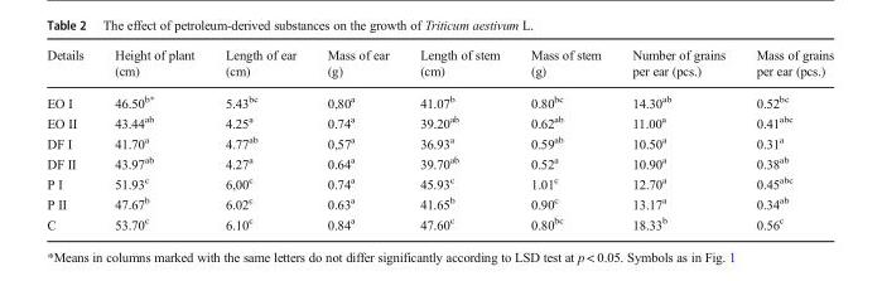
<table><thead><tr><td>Details</td><td>Height of plant (cm)</td><td>Length of ear (cm)</td><td>Mass of ear (g)</td><td>Length of stem (cm)</td><td>Mass of stem (g)</td><td>Number of grains per ear (pcs.)</td><td>Mass of grains per ear (pcs.)</td></tr></thead><tbody><tr><td>EO I</td><td>46.50<sup>b*</sup></td><td>5.43<sup>bc</sup></td><td>0,80<sup>a</sup></td><td>41.07<sup>b</sup></td><td>0.80<sup>bc</sup></td><td>14.30<sup>ab</sup></td><td>0.52<sup>bc</sup></td></tr><tr><td>EO II</td><td>43.44<sup>ab</sup></td><td>4.25<sup>a</sup></td><td>0.74<sup>a</sup></td><td>39.20<sup>ab</sup></td><td>0.62<sup>ab</sup></td><td>11.00<sup>a</sup></td><td>0.41<sup>abc</sup></td></tr><tr><td>DF I</td><td>41.70<sup>a</sup></td><td>4.77<sup>ab</sup></td><td>0,57<sup>a</sup></td><td>36.93<sup>a</sup></td><td>0.59<sup>ab</sup></td><td>10.50<sup>a</sup></td><td>0.31<sup>a</sup></td></tr><tr><td>DF II</td><td>43.97<sup>ab</sup></td><td>4.27<sup>a</sup></td><td>0.64<sup>a</sup></td><td>39.70<sup>ab</sup></td><td>0.52<sup>a</sup></td><td>10.90<sup>a</sup></td><td>0.38<sup>ab</sup></td></tr><tr><td>P I</td><td>51.93<sup>c</sup></td><td>6,00<sup>c</sup></td><td>0.74<sup>a</sup></td><td>45.93<sup>c</sup></td><td>1.01<sup>c</sup></td><td>12.70<sup>a</sup></td><td>0.45<sup>abc</sup></td></tr><tr><td>P II</td><td>47.67<sup>b</sup></td><td>6.02<sup>c</sup></td><td>0.63<sup>a</sup></td><td>41.65<sup>b</sup></td><td>0.90<sup>c</sup></td><td>13.17<sup>a</sup></td><td>0.34<sup>ab</sup></td></tr><tr><td>C</td><td>53.70<sup>c</sup></td><td>6.10<sup>c</sup></td><td>0.84<sup>a</sup></td><td>47.60<sup>c</sup></td><td>0.80<sup>bc</sup></td><td>18.33<sup>b</sup></td><td>0.56<sup>c</sup></td></tr></tbody></table>